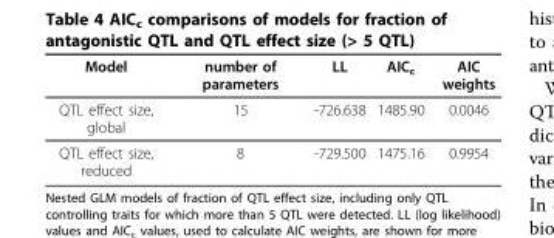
<table><thead><tr><td>Model</td><td>number of parameters</td><td>LL</td><td>AIC<sub>c</sub></td><td>AIC weights</td></tr></thead><tbody><tr><td>QTL effect size, global</td><td>15</td><td>-726.638</td><td>1485.90</td><td>0.0046</td></tr><tr><td>QTL effect size, reduced</td><td>8</td><td>-729.500</td><td>1475.16</td><td>0.9954</td></tr></tbody></table>